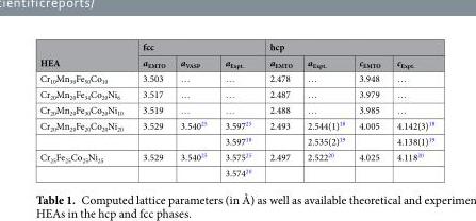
<table><thead><tr><td rowspan="2">HEA</td><td colspan="3">fcc</td><td colspan="4">hcp</td></tr><tr><td>a<sub>EMTO</sub></td><td>a<sub>VASP</sub></td><td>a<sub>Expt</sub>.</td><td>a<sub>EMTO</sub></td><td>a<sub>Expt.</sub></td><td>c<sub>EMTO</sub></td><td>c<sub>Expt.</sub></td></tr></thead><tbody><tr><td>Cr<sub>10</sub>Mn<sub>30</sub>Fe<sub>50</sub>Co<sub>10</sub></td><td>3.503</td><td>…</td><td>…</td><td>2.478</td><td>…</td><td>3.948</td><td>…</td></tr><tr><td>Cr<sub>20</sub>Mn<sub>20</sub>Fe<sub>34</sub>Co<sub>20</sub>Ni<sub>6</sub></td><td>3.517</td><td>…</td><td>…</td><td>2.487</td><td>…</td><td>3.979</td><td>…</td></tr><tr><td>Cr<sub>20</sub>Mn<sub>20</sub>Fe<sub>30</sub>Co<sub>20</sub>Ni<sub>10</sub></td><td>3.519</td><td>…</td><td>…</td><td>2.488</td><td>…</td><td>3.985</td><td>…</td></tr><tr><td rowspan="2">Cr<sub>20</sub>Mn<sub>20</sub>Fe<sub>20</sub>Co<sub>20</sub>Ni<sub>20</sub></td><td>3.529</td><td>3.540<sup>25</sup></td><td>3.597<sup>25</sup></td><td>2.493</td><td>2.544(1)<sup>18</sup></td><td>4.005</td><td>4.142(3)<sup>18</sup></td></tr><tr><td></td><td></td><td>3.597<sup>18</sup></td><td></td><td>2.535(2)<sup>19</sup></td><td></td><td>4.138(1)<sup>19</sup></td></tr><tr><td rowspan="2">Cr<sub>25</sub>Fe<sub>25</sub>Co<sub>25</sub>Ni<sub>25</sub></td><td>3.529</td><td>3.540<sup>25</sup></td><td>3.575<sup>25</sup></td><td>2.497</td><td>2.522<sup>20</sup></td><td>4.025</td><td>4.118<sup>20</sup></td></tr><tr><td></td><td></td><td>3.574<sup>20</sup></td><td></td><td></td><td></td><td></td></tr></tbody></table>